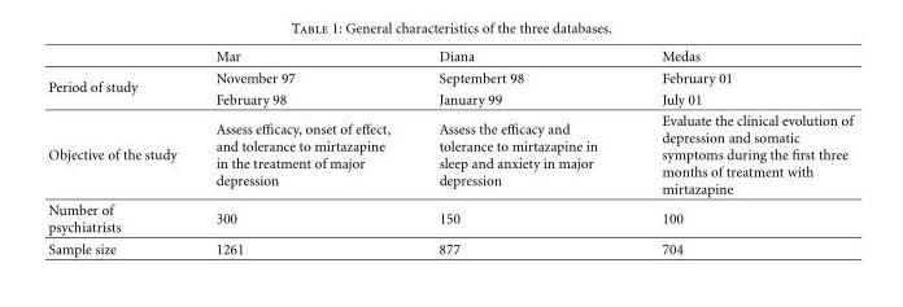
<table><thead><tr><td></td><td>Mar</td><td>Diana</td><td>Medas</td></tr></thead><tbody><tr><td rowspan="2">Period of study</td><td>November 97</td><td>Septembert 98</td><td>February 01</td></tr><tr><td>February 98</td><td>January 99</td><td>July 01</td></tr><tr><td>Objective of the study</td><td>Assess efficacy, onset of effect, and tolerance to mirtazapine in the treatment of major depression</td><td>Assess the efficacy and tolerance to mirtazapine in sleep and anxiety in major depression</td><td>Evaluate the clinical evolution of depression and somatic symptoms during the first three months of treatment with mirtazapine</td></tr><tr><td>Number of psychiatrists</td><td>300</td><td>150</td><td>100</td></tr><tr><td>Sample size</td><td>1261</td><td>877</td><td>704</td></tr></tbody></table>